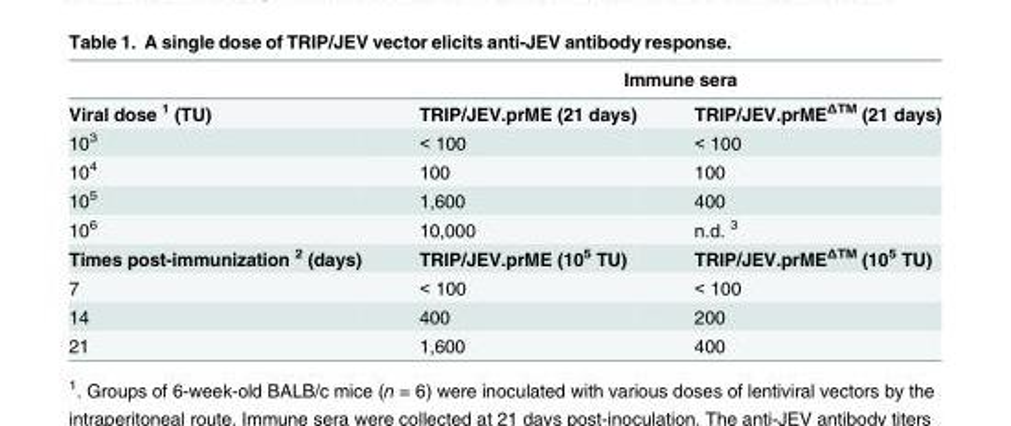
<table><thead><tr><td rowspan="2">Viral dose <sup>1</sup> (TU)</td><td colspan="2">Immune sera</td></tr><tr><td>TRIP/JEV.prME (21 days)</td><td>TRIP/JEV.prME<sup>ΔTM</sup> (21 days)</td></tr></thead><tbody><tr><td>10<sup>3</sup></td><td>&lt; 100</td><td>&lt; 100</td></tr><tr><td>10<sup>4</sup></td><td>100</td><td>100</td></tr><tr><td>10<sup>5</sup></td><td>1,600</td><td>400</td></tr><tr><td>10<sup>6</sup></td><td>10,000</td><td>n.d. <sup>3</sup></td></tr><tr><td>Times post-immunization <sup>2</sup> (days)</td><td>TRIP/JEV.prME (10<sup>5</sup> TU)</td><td>TRIP/JEV.prME<sup>ΔTM</sup> (10<sup>5</sup> TU)</td></tr><tr><td>7</td><td>&lt; 100</td><td>&lt; 100</td></tr><tr><td>14</td><td>400</td><td>200</td></tr><tr><td>21</td><td>1,600</td><td>400</td></tr></tbody></table>